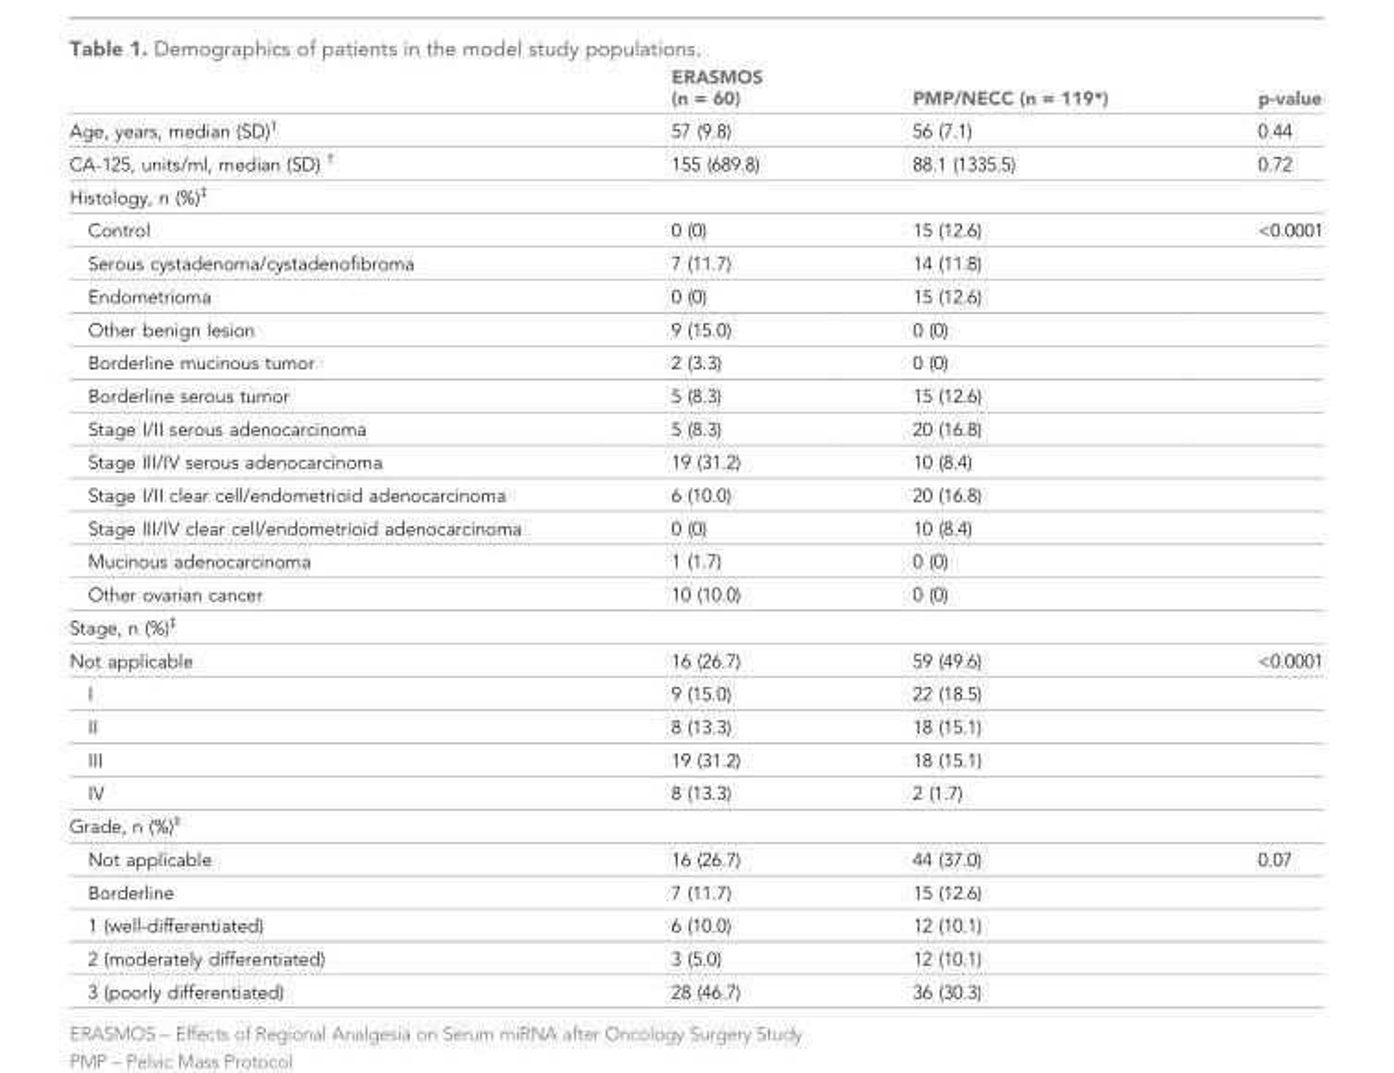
<table><thead><tr><td></td><td>ERASMOS (n = 60)</td><td>PMP/NECC (n = 119*)</td><td>p-value</td></tr></thead><tbody><tr><td>Age, years, median (SD)<sup>†</sup></td><td>57 (9.8)</td><td>56 (7.1)</td><td>0.44</td></tr><tr><td>CA-125, units/ml, median (SD) <sup>†</sup></td><td>155 (689.8)</td><td>88.1 (1335.5)</td><td>0.72</td></tr><tr><td colspan="4">Histology, n (%)<sup>‡</sup></td></tr><tr><td>Control</td><td>0 (0)</td><td>15 (12.6)</td><td>&lt;0.0001</td></tr><tr><td>Serous cystadenoma/cystadenofibroma</td><td>7 (11.7)</td><td>14 (11.8)</td><td></td></tr><tr><td>Endometrioma</td><td>0 (0)</td><td>15 (12.6)</td><td></td></tr><tr><td>Other benign lesion</td><td>9 (15.0)</td><td>0 (0)</td><td></td></tr><tr><td>Borderline mucinous tumor</td><td>2 (3.3)</td><td>0 (0)</td><td></td></tr><tr><td>Borderline serous tumor</td><td>5 (8.3)</td><td>15 (12.6)</td><td></td></tr><tr><td>Stage I/II serous adenocarcinoma</td><td>5 (8.3)</td><td>20 (16.8)</td><td></td></tr><tr><td>Stage III/IV serous adenocarcinoma</td><td>19 (31.2)</td><td>10 (8.4)</td><td></td></tr><tr><td>Stage I/II clear cell/endometrioid adenocarcinoma</td><td>6 (10.0)</td><td>20 (16.8)</td><td></td></tr><tr><td>Stage III/IV clear cell/endometrioid adenocarcinoma</td><td>0 (0)</td><td>10 (8.4)</td><td></td></tr><tr><td>Mucinous adenocarcinoma</td><td>1 (1.7)</td><td>0 (0)</td><td></td></tr><tr><td>Other ovarian cancer</td><td>10 (10.0)</td><td>0 (0)</td><td></td></tr><tr><td colspan="4">Stage, n (%)<sup>‡</sup></td></tr><tr><td>Not applicable</td><td>16 (26.7)</td><td>59 (49.6)</td><td>&lt;0.0001</td></tr><tr><td>I</td><td>9 (15.0)</td><td>22 (18.5)</td><td></td></tr><tr><td>II</td><td>8 (13.3)</td><td>18 (15.1)</td><td></td></tr><tr><td>III</td><td>19 (31.2)</td><td>18 (15.1)</td><td></td></tr><tr><td>IV</td><td>8 (13.3)</td><td>2 (1.7)</td><td></td></tr><tr><td colspan="4">Grade, n (%)<sup>‡</sup></td></tr><tr><td>Not applicable</td><td>16 (26.7)</td><td>44 (37.0)</td><td>0.07</td></tr><tr><td>Borderline</td><td>7 (11.7)</td><td>15 (12.6)</td><td></td></tr><tr><td>1 (well-differentiated)</td><td>6 (10.0)</td><td>12 (10.1)</td><td></td></tr><tr><td>2 (moderately differentiated)</td><td>3 (5.0)</td><td>12 (10.1)</td><td></td></tr><tr><td>3 (poorly differentiated)</td><td>28 (46.7)</td><td>36 (30.3)</td><td></td></tr></tbody></table>